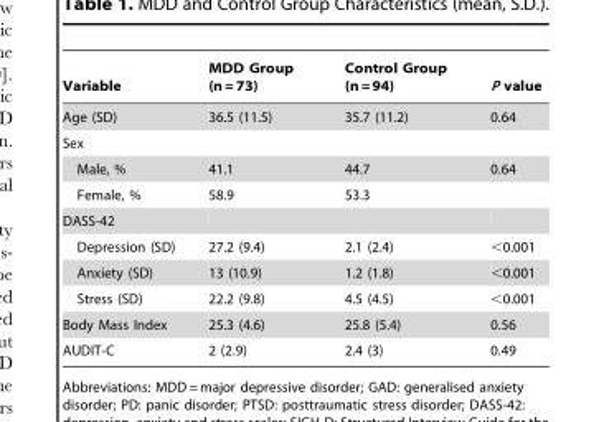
<table><thead><tr><td>Variable</td><td>MDD Group (n = 73)</td><td>Control Group (n = 94)</td><td>P value</td></tr></thead><tbody><tr><td>Age (SD)</td><td>36.5 (11.5)</td><td>35.7 (11.2)</td><td>0.64</td></tr><tr><td colspan="4">Sex</td></tr><tr><td>Male, %</td><td>41.1</td><td>44.7</td><td>0.64</td></tr><tr><td>Female, %</td><td>58.9</td><td>53.3</td><td></td></tr><tr><td colspan="4">DASS-42</td></tr><tr><td>Depression (SD)</td><td>27.2 (9.4)</td><td>2.1 (2.4)</td><td>&lt;0.001</td></tr><tr><td>Anxiety (SD)</td><td>13 (10.9)</td><td>1.2 (1.8)</td><td>&lt;0.001</td></tr><tr><td>Stress (SD)</td><td>22.2 (9.8)</td><td>4.5 (4.5)</td><td>&lt;0.001</td></tr><tr><td>Body Mass Index</td><td>25.3 (4.6)</td><td>25.8 (5.4)</td><td>0.56</td></tr><tr><td>AUDIT-C</td><td>2 (2.9)</td><td>2.4 (3)</td><td>0.49</td></tr></tbody></table>